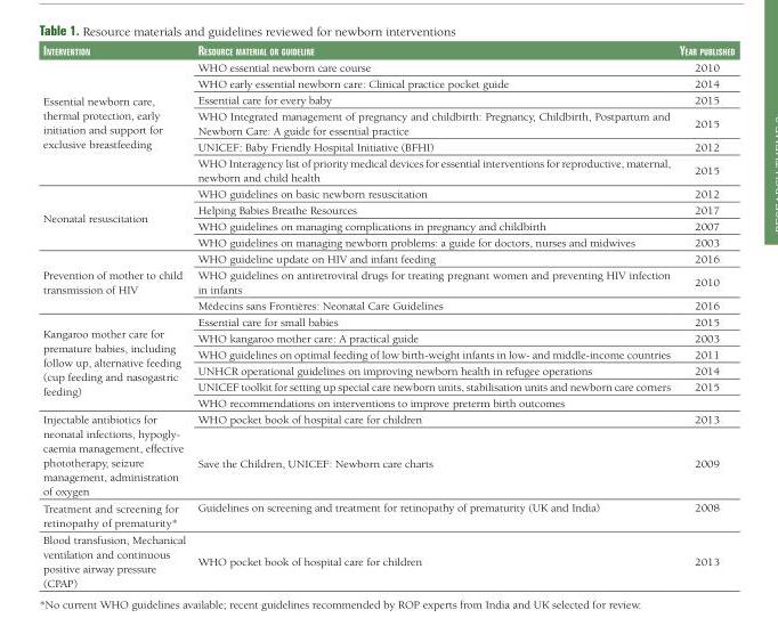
<table><thead><tr><td>InterventIon</td><td>resource materIal or guIdelIne</td><td>Year publIshed</td></tr></thead><tbody><tr><td rowspan="6">Essential newborn care, thermal protection, early initiation and support for exclusive breastfeeding</td><td>WHO essential newborn care course</td><td>2010</td></tr><tr><td>WHO early essential newborn care: Clinical practice pocket guide</td><td>2014</td></tr><tr><td>Essential care for every baby</td><td>2015</td></tr><tr><td>WHO Integrated management of pregnancy and childbirth: Pregnancy, Childbirth, Postpartum and Newborn Care: A guide for essential practice</td><td>2015</td></tr><tr><td>UNICEF: Baby Friendly Hospital Initiative (BFHI)</td><td>2012</td></tr><tr><td>WHO Interagency list of priority medical devices for essential interventions for reproductive, maternal, newborn and child health</td><td>2015</td></tr><tr><td rowspan="4">Neonatal resuscitation</td><td>WHO guidelines on basic newborn resuscitation</td><td>2012</td></tr><tr><td>Helping Babies Breathe Resources</td><td>2017</td></tr><tr><td>WHO guidelines on managing complications in pregnancy and childbirth</td><td>2007</td></tr><tr><td>WHO guidelines on managing newborn problems: a guide for doctors, nurses and midwives</td><td>2003</td></tr><tr><td rowspan="3">Prevention of mother to child transmission of HIV</td><td>WHO guideline update on HIV and infant feeding</td><td>2016</td></tr><tr><td>WHO guidelines on antiretroviral drugs for treating pregnant women and preventing HIV infection in infants</td><td>2010</td></tr><tr><td>Médecins sans Frontières: Neonatal Care Guidelines</td><td>2016</td></tr><tr><td rowspan="6">Kangaroo mother care for premature babies, including follow up, alternative feeding (cup feeding and nasogastric feeding)</td><td>Essential care for small babies</td><td>2015</td></tr><tr><td>WHO kangaroo mother care: A practical guide</td><td>2003</td></tr><tr><td>WHO guidelines on optimal feeding of low birth-weight infants in low- and middle-income countries</td><td>2011</td></tr><tr><td>UNHCR operational guidelines on improving newborn health in refugee operations</td><td>2014</td></tr><tr><td>UNICEF toolkit for setting up special care newborn units, stabilisation units and newborn care corners</td><td>2015</td></tr><tr><td>WHO recommendations on interventions to improve preterm birth outcomes</td><td></td></tr><tr><td rowspan="2">Injectable antibiotics for neonatal infections, hypogly- caemia management, effective phototherapy, seizure management, administration of oxygen</td><td>WHO pocket book of hospital care for children</td><td>2013</td></tr><tr><td>Save the Children, UNICEF: Newborn care charts</td><td>2009</td></tr><tr><td>Treatment and screening for retinopathy of prematurity*</td><td>Guidelines on screening and treatment for retinopathy of prematurity (UK and India)</td><td>2008</td></tr><tr><td>Blood transfusion, Mechanical ventilation and continuous positive airway pressure (CPAP)</td><td>WHO pocket book of hospital care for children</td><td>2013</td></tr></tbody></table>